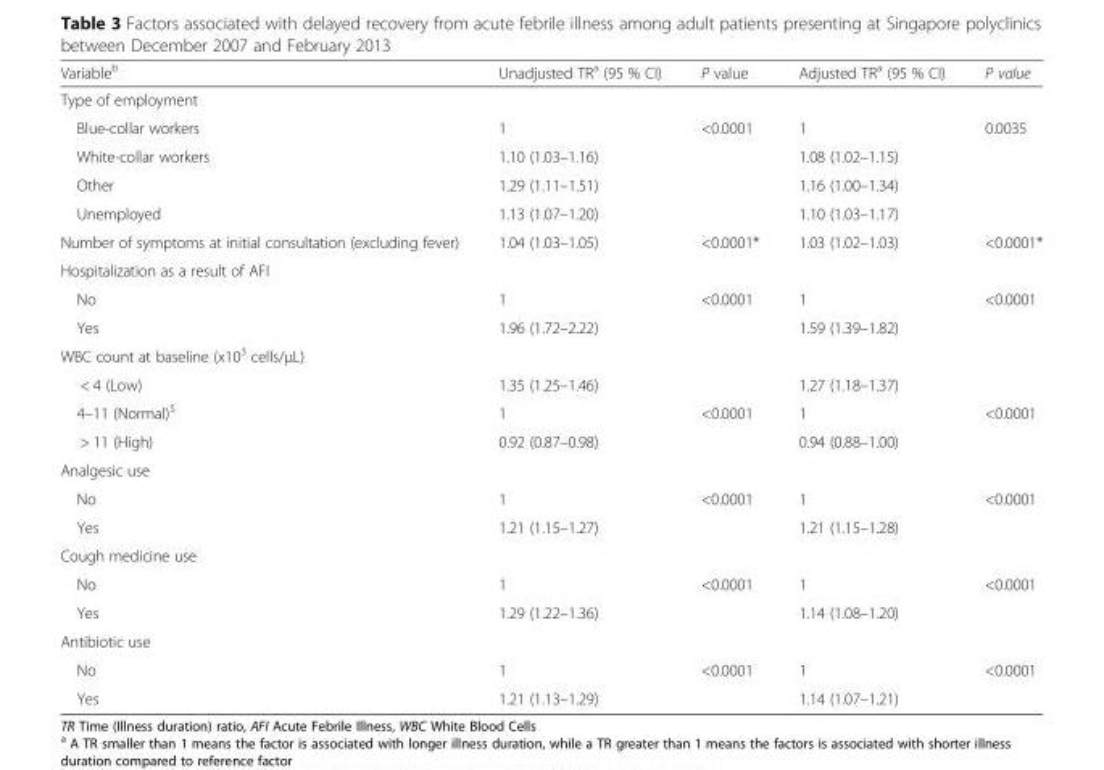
<table><thead><tr><td>Variable<sup>b</sup></td><td>Unadjusted TR<sup>a</sup> (95 % CI)</td><td>P value</td><td>Adjusted TR<sup>a</sup> (95 % CI)</td><td>P value</td></tr></thead><tbody><tr><td colspan="5">Type of employment</td></tr><tr><td>Blue-collar workers</td><td>1</td><td>&lt;0.0001</td><td>1</td><td>0.0035</td></tr><tr><td>White-collar workers</td><td>1.10 (1.03–1.16)</td><td></td><td>1.08 (1.02–1.15)</td><td></td></tr><tr><td>Other</td><td>1.29 (1.11–1.51)</td><td></td><td>1.16 (1.00–1.34)</td><td></td></tr><tr><td>Unemployed</td><td>1.13 (1.07–1.20)</td><td></td><td>1.10 (1.03–1.17)</td><td></td></tr><tr><td>Number of symptoms at initial consultation (excluding fever)</td><td>1.04 (1.03–1.05)</td><td>&lt;0.0001*</td><td>1.03 (1.02–1.03)</td><td>&lt;0.0001*</td></tr><tr><td colspan="5">Hospitalization as a result of AFI</td></tr><tr><td>No</td><td>1</td><td>&lt;0.0001</td><td>1</td><td>&lt;0.0001</td></tr><tr><td>Yes</td><td>1.96 (1.72–2.22)</td><td></td><td>1.59 (1.39–1.82)</td><td></td></tr><tr><td colspan="5">WBC count at baseline (x10<sup>3</sup> cells/μL)</td></tr><tr><td>&lt; 4 (Low)</td><td>1.35 (1.25–1.46)</td><td></td><td>1.27 (1.18–1.37)</td><td></td></tr><tr><td>4–11 (Normal)<sup>$</sup></td><td>1</td><td>&lt;0.0001</td><td>1</td><td>&lt;0.0001</td></tr><tr><td>&gt; 11 (High)</td><td>0.92 (0.87–0.98)</td><td></td><td>0.94 (0.88–1.00)</td><td></td></tr><tr><td colspan="5">Analgesic use</td></tr><tr><td>No</td><td>1</td><td>&lt;0.0001</td><td>1</td><td>&lt;0.0001</td></tr><tr><td>Yes</td><td>1.21 (1.15–1.27)</td><td></td><td>1.21 (1.15–1.28)</td><td></td></tr><tr><td colspan="5">Cough medicine use</td></tr><tr><td>No</td><td>1</td><td>&lt;0.0001</td><td>1</td><td>&lt;0.0001</td></tr><tr><td>Yes</td><td>1.29 (1.22–1.36)</td><td></td><td>1.14 (1.08–1.20)</td><td></td></tr><tr><td colspan="5">Antibiotic use</td></tr><tr><td>No</td><td>1</td><td>&lt;0.0001</td><td>1</td><td>&lt;0.0001</td></tr><tr><td>Yes</td><td>1.21 (1.13–1.29)</td><td></td><td>1.14 (1.07–1.21)</td><td></td></tr></tbody></table>